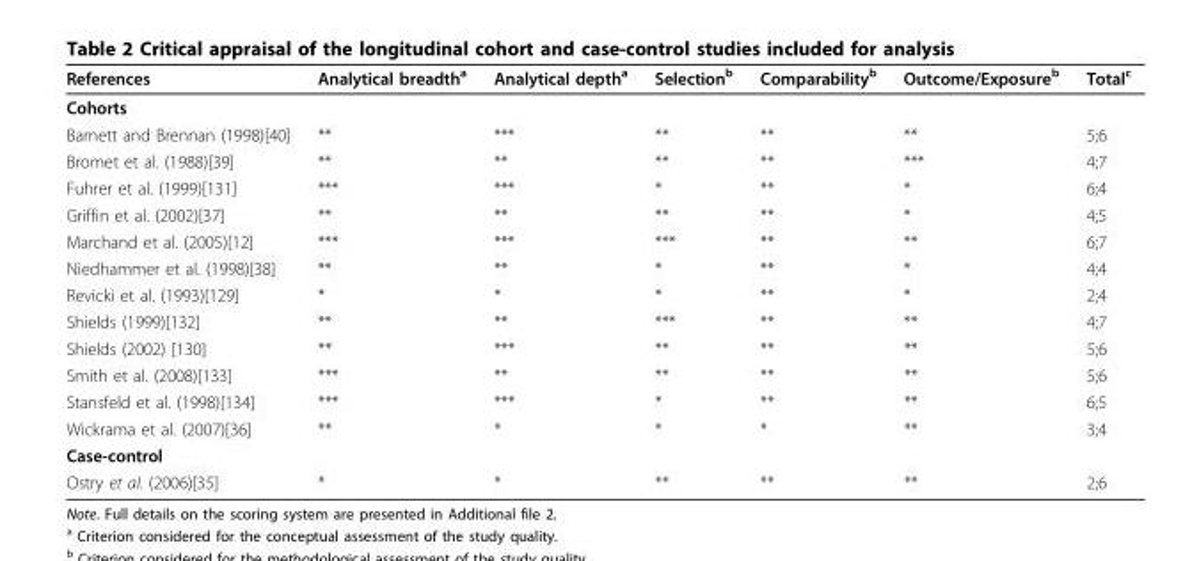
<table><thead><tr><td>References</td><td>Analytical breadth<sup>a</sup></td><td>Analytical depth<sup>a</sup></td><td>Selection<sup>b</sup></td><td>Comparability<sup>b</sup></td><td>Outcome/Exposure<sup>b</sup></td><td>Total<sup>c</sup></td></tr></thead><tbody><tr><td colspan="7">Cohorts</td></tr><tr><td>Barnett and Brennan (1998)[40]</td><td>**</td><td>***</td><td>**</td><td>**</td><td>**</td><td>5;6</td></tr><tr><td>Bromet et al. (1988)[39]</td><td>**</td><td>**</td><td>**</td><td>**</td><td>***</td><td>4;7</td></tr><tr><td>Fuhrer et al. (1999)[131]</td><td>***</td><td>***</td><td>*</td><td>**</td><td>*</td><td>6;4</td></tr><tr><td>Griffin et al. (2002)[37]</td><td>**</td><td>**</td><td>**</td><td>**</td><td>*</td><td>4;5</td></tr><tr><td>Marchand et al. (2005)[12]</td><td>***</td><td>***</td><td>***</td><td>**</td><td>**</td><td>6;7</td></tr><tr><td>Niedhammer et al. (1998)[38]</td><td>**</td><td>**</td><td>*</td><td>**</td><td>*</td><td>4;4</td></tr><tr><td>Revicki et al. (1993)[129]</td><td>*</td><td>*</td><td>*</td><td>**</td><td>*</td><td>2;4</td></tr><tr><td>Shields (1999)[132]</td><td>**</td><td>**</td><td>***</td><td>**</td><td>**</td><td>4;7</td></tr><tr><td>Shields (2002) [130]</td><td>**</td><td>***</td><td>**</td><td>**</td><td>**</td><td>5;6</td></tr><tr><td>Smith et al. (2008)[133]</td><td>***</td><td>**</td><td>**</td><td>**</td><td>**</td><td>5;6</td></tr><tr><td>Stansfeld et al. (1998)[134]</td><td>***</td><td>***</td><td>*</td><td>**</td><td>**</td><td>6;5</td></tr><tr><td>Wickrama et al. (2007)[36]</td><td>**</td><td>*</td><td>*</td><td>*</td><td>**</td><td>3;4</td></tr><tr><td colspan="7">Case-control</td></tr><tr><td>Ostry et al. (2006)[35]</td><td>*</td><td>*</td><td>**</td><td>**</td><td>**</td><td>2;6</td></tr></tbody></table>